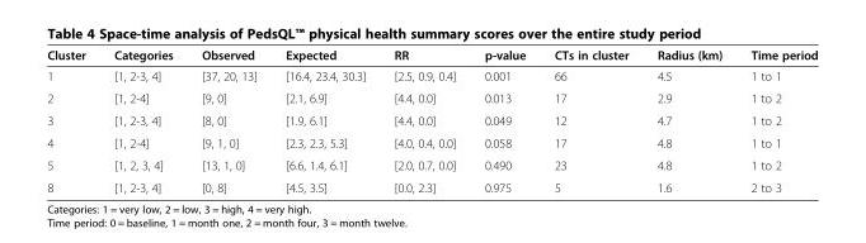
<table><thead><tr><td>Cluster</td><td>Categories</td><td>Observed</td><td>Expected</td><td>RR</td><td>p-value</td><td>CTs in cluster</td><td>Radius (km)</td><td>Time period</td></tr></thead><tbody><tr><td>1</td><td>[1, 2-3, 4]</td><td>[37, 20, 13]</td><td>[16.4, 23.4, 30.3]</td><td>[2.5, 0.9, 0.4]</td><td>0.001</td><td>66</td><td>4.5</td><td>1 to 1</td></tr><tr><td>2</td><td>[1, 2-4]</td><td>[9, 0]</td><td>[2.1, 6.9]</td><td>[4.4, 0.0]</td><td>0.013</td><td>17</td><td>2.9</td><td>1 to 2</td></tr><tr><td>3</td><td>[1, 2-3, 4]</td><td>[8, 0]</td><td>[1.9, 6.1]</td><td>[4.4, 0.0]</td><td>0.049</td><td>12</td><td>4.7</td><td>1 to 2</td></tr><tr><td>4</td><td>[1, 2-4]</td><td>[9, 1, 0]</td><td>[2.3, 2.3, 5.3]</td><td>[4.0, 0.4, 0.0]</td><td>0.058</td><td>17</td><td>4.8</td><td>1 to 1</td></tr><tr><td>5</td><td>[1, 2, 3, 4]</td><td>[13, 1, 0]</td><td>[6.6, 1.4, 6.1]</td><td>[2.0, 0.7, 0.0]</td><td>0.490</td><td>23</td><td>4.8</td><td>1 to 2</td></tr><tr><td>8</td><td>[1, 2-3, 4]</td><td>[0, 8]</td><td>[4.5, 3.5]</td><td>[0.0, 2.3]</td><td>0.975</td><td>5</td><td>1.6</td><td>2 to 3</td></tr></tbody></table>